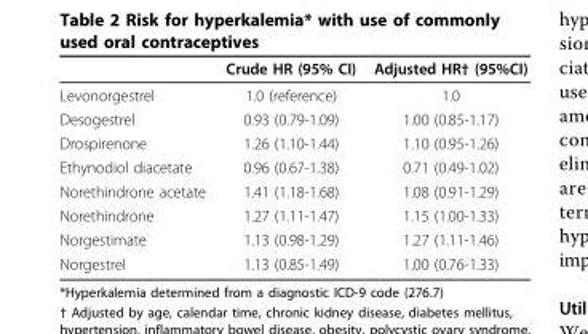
<table><thead><tr><td></td><td>Crude HR (95% CI)</td><td>Adjusted HR† (95%CI)</td></tr></thead><tbody><tr><td>Levonorgestrel</td><td>1.0 (reference)</td><td>1.0</td></tr><tr><td>Desogestrel</td><td>0.93 (0.79-1.09)</td><td>1.00 (0.85-1.17)</td></tr><tr><td>Drospirenone</td><td>1.26 (1.10-1.44)</td><td>1.10 (0.95-1.26)</td></tr><tr><td>Ethynodiol diacetate</td><td>0.96 (0.67-1.38)</td><td>0.71 (0.49-1.02)</td></tr><tr><td>Norethindrone acetate</td><td>1.41 (1.18-1.68)</td><td>1.08 (0.91-1.29)</td></tr><tr><td>Norethindrone</td><td>1.27 (1.11-1.47)</td><td>1.15 (1.00-1.33)</td></tr><tr><td>Norgestimate</td><td>1.13 (0.98-1.29)</td><td>1.27 (1.11-1.46)</td></tr><tr><td>Norgestrel</td><td>1.13 (0.85-1.49)</td><td>1.00 (0.76-1.33)</td></tr></tbody></table>